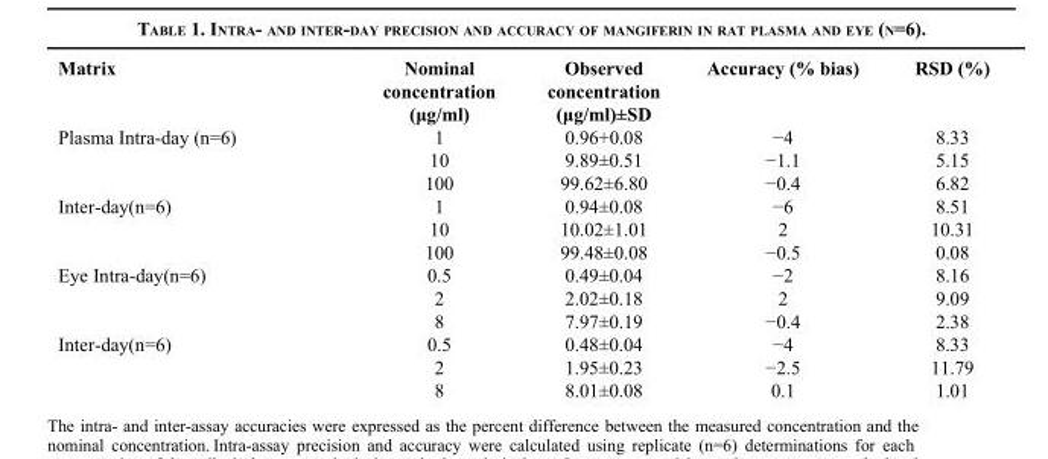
<table><thead><tr><td>Matrix</td><td>Nominal concentration (μg/ml)</td><td>Observed concentration (μg/ml)±SD</td><td>Accuracy (% bias)</td><td>RSD (%)</td></tr></thead><tbody><tr><td rowspan="3">Plasma Intra-day (n=6)</td><td>1</td><td>0.96+0.08</td><td>−4</td><td>8.33</td></tr><tr><td>10</td><td>9.89±0.51</td><td>−1.1</td><td>5.15</td></tr><tr><td>100</td><td>99.62±6.80</td><td>−0.4</td><td>6.82</td></tr><tr><td rowspan="3">Inter-day(n=6)</td><td>1</td><td>0.94±0.08</td><td>−6</td><td>8.51</td></tr><tr><td>10</td><td>10.02±1.01</td><td>2</td><td>10.31</td></tr><tr><td>100</td><td>99.48±0.08</td><td>−0.5</td><td>0.08</td></tr><tr><td rowspan="3">Eye Intra-day(n=6)</td><td>0.5</td><td>0.49±0.04</td><td>−2</td><td>8.16</td></tr><tr><td>2</td><td>2.02±0.18</td><td>2</td><td>9.09</td></tr><tr><td>8</td><td>7.97±0.19</td><td>−0.4</td><td>2.38</td></tr><tr><td rowspan="3">Inter-day(n=6)</td><td>0.5</td><td>0.48±0.04</td><td>−4</td><td>8.33</td></tr><tr><td>2</td><td>1.95±0.23</td><td>−2.5</td><td>11.79</td></tr><tr><td>8</td><td>8.01±0.08</td><td>0.1</td><td>1.01</td></tr></tbody></table>